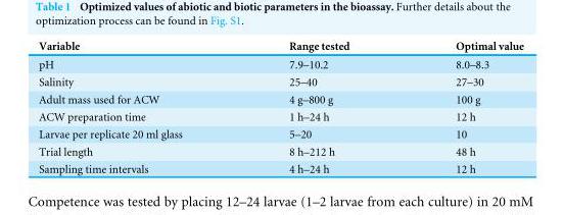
<table><thead><tr><td>Variable</td><td>Range tested</td><td>Optimal value</td></tr></thead><tbody><tr><td>pH</td><td>7.9–10.2</td><td>8.0–8.3</td></tr><tr><td>Salinity</td><td>25–40</td><td>27–30</td></tr><tr><td>Adult mass used for ACW</td><td>4 g–800 g</td><td>100 g</td></tr><tr><td>ACW preparation time</td><td>1 h–24 h</td><td>12 h</td></tr><tr><td>Larvae per replicate 20 ml glass</td><td>5–20</td><td>10</td></tr><tr><td>Trial length</td><td>8 h–212 h</td><td>48 h</td></tr><tr><td>Sampling time intervals</td><td>4 h–24 h</td><td>12 h</td></tr></tbody></table>